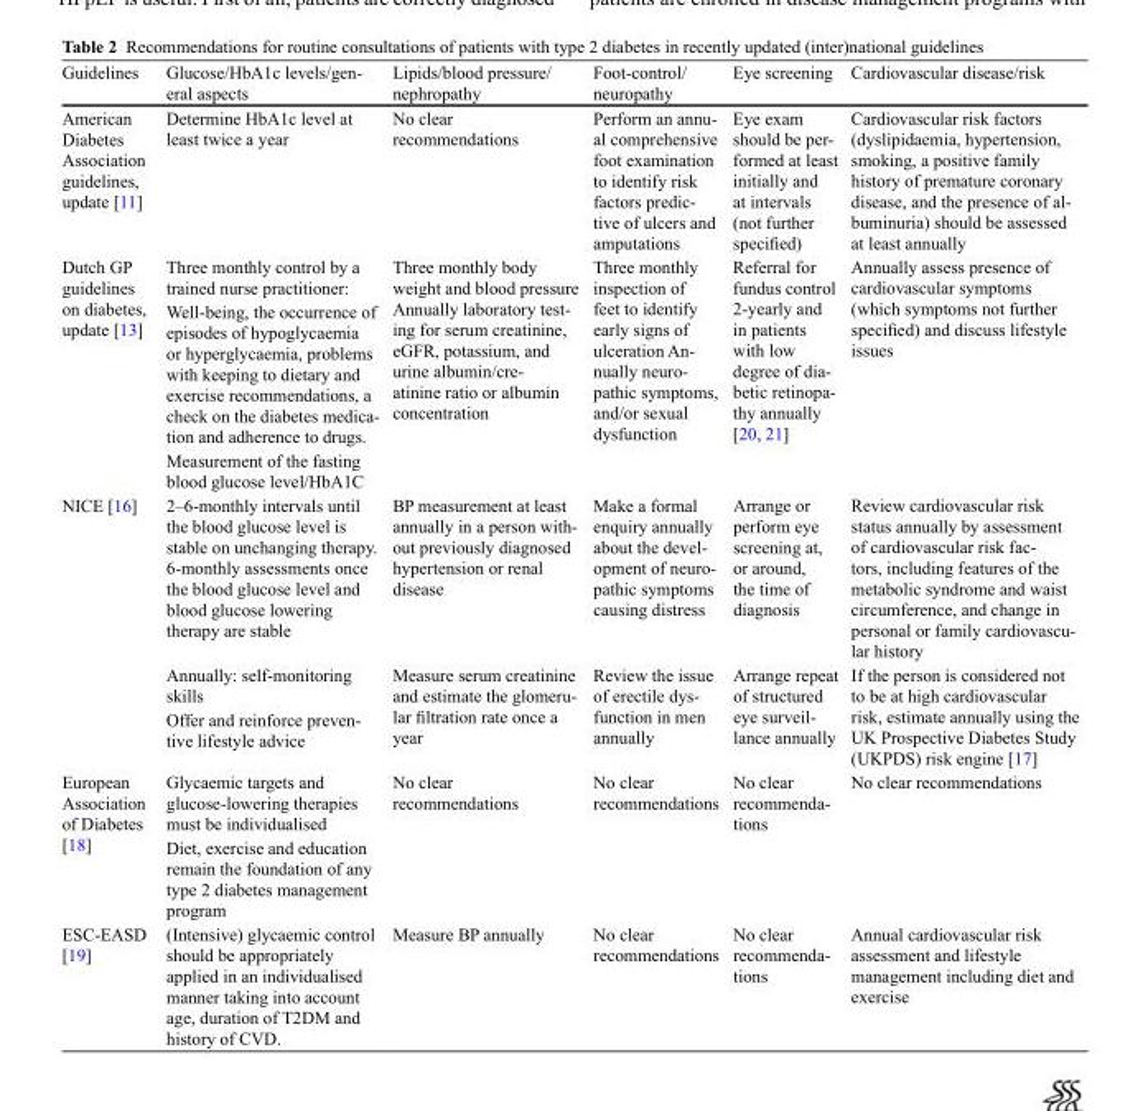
<table><thead><tr><td>Guidelines</td><td>Glucose/HbA1c levels/gen- eral aspects</td><td>Lipids/blood pressure/ nephropathy</td><td>Foot-control/ neuropathy</td><td>Eye screening</td><td>Cardiovascular disease/risk</td></tr></thead><tbody><tr><td>American Diabetes Association guidelines, update [11]</td><td>Determine HbA1c level at least twice a year</td><td>No clear recommendations</td><td>Perform an annu- al comprehensive foot examination to identify risk factors predic- tive of ulcers and amputations</td><td>Eye exam should be per- formed at least initially and at intervals (not further specified)</td><td>Cardiovascular risk factors (dyslipidaemia, hypertension, smoking, a positive family history of premature coronary disease, and the presence of al- buminuria) should be assessed at least annually</td></tr><tr><td rowspan="3">Dutch GP guidelines on diabetes, update [13]</td><td>Three monthly control by a trained nurse practitioner:</td><td rowspan="3">Three monthly body weight and blood pressure Annually laboratory test- ing for serum creatinine, eGFR, potassium, and urine albumin/cre- atinine ratio or albumin concentration</td><td rowspan="3">Three monthly inspection of feet to identify early signs of ulceration An- nually neuro- pathic symptoms, and/or sexual dysfunction</td><td rowspan="3">Referral for fundus control 2-yearly and in patients with low degree of dia- betic retinopa- thy annually [20, 21]</td><td rowspan="3">Annually assess presence of cardiovascular symptoms (which symptoms not further specified) and discuss lifestyle issues</td></tr><tr><td>Well-being, the occurrence of episodes of hypoglycaemia or hyperglycaemia, problems with keeping to dietary and exercise recommendations, a check on the diabetes medica- tion and adherence to drugs.</td></tr><tr><td>Measurement of the fasting blood glucose level/HbA1C</td></tr><tr><td rowspan="3">NICE [16]</td><td>2–6-monthly intervals until the blood glucose level is stable on unchanging therapy. 6-monthly assessments once the blood glucose level and blood glucose lowering therapy are stable</td><td>BP measurement at least annually in a person with- out previously diagnosed hypertension or renal disease</td><td>Make a formal enquiry annually about the devel- opment of neuro- pathic symptoms causing distress</td><td>Arrange or perform eye screening at, or around, the time of diagnosis</td><td>Review cardiovascular risk status annually by assessment of cardiovascular risk fac- tors, including features of the metabolic syndrome and waist circumference, and change in personal or family cardiovascu- lar history</td></tr><tr><td>Annually: self-monitoring skills</td><td rowspan="2">Measure serum creatinine and estimate the glomeru- lar filtration rate once a year</td><td rowspan="2">Review the issue of erectile dys- function in men annually</td><td rowspan="2">Arrange repeat of structured eye surveil- lance annually</td><td rowspan="2">If the person is considered not to be at high cardiovascular risk, estimate annually using the UK Prospective Diabetes Study (UKPDS) risk engine [17]</td></tr><tr><td>Offer and reinforce preven- tive lifestyle advice</td></tr><tr><td rowspan="2">European Association of Diabetes [18]</td><td>Glycaemic targets and glucose-lowering therapies must be individualised</td><td rowspan="2">No clear recommendations</td><td rowspan="2">No clear recommendations</td><td rowspan="2">No clear recommenda- tions</td><td rowspan="2">No clear recommendations</td></tr><tr><td>Diet, exercise and education remain the foundation of any type 2 diabetes management program</td></tr><tr><td>ESC-EASD [19]</td><td>(Intensive) glycaemic control should be appropriately applied in an individualised manner taking into account age, duration of T2DM and history of CVD.</td><td>Measure BP annually</td><td>No clear recommendations</td><td>No clear recommenda- tions</td><td>Annual cardiovascular risk assessment and lifestyle management including diet and exercise</td></tr></tbody></table>